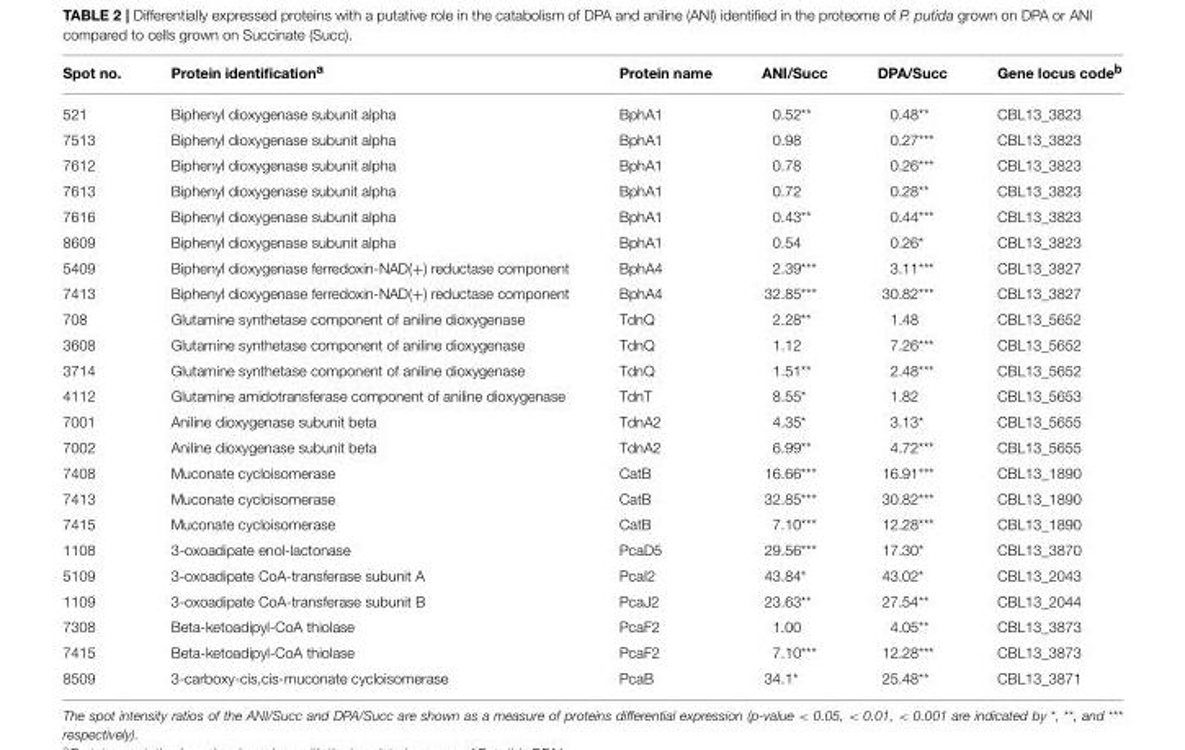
<table><thead><tr><td>Spot no.</td><td>Protein identification<sup>a</sup></td><td>Protein name</td><td>ANI/Succ</td><td>DPA/Succ</td><td>Gene locus code<sup>b</sup></td></tr></thead><tbody><tr><td>521</td><td>Biphenyl dioxygenase subunit alpha</td><td>BphA1</td><td>0.52**</td><td>0.48**</td><td>CBL13_3823</td></tr><tr><td>7513</td><td>Biphenyl dioxygenase subunit alpha</td><td>BphA1</td><td>0.98</td><td>0.27***</td><td>CBL13_3823</td></tr><tr><td>7612</td><td>Biphenyl dioxygenase subunit alpha</td><td>BphA1</td><td>0.78</td><td>0.26***</td><td>CBL13_3823</td></tr><tr><td>7613</td><td>Biphenyl dioxygenase subunit alpha</td><td>BphA1</td><td>0.72</td><td>0.28**</td><td>CBL13_3823</td></tr><tr><td>7616</td><td>Biphenyl dioxygenase subunit alpha</td><td>BphA1</td><td>0.43**</td><td>0.44***</td><td>CBL13_3823</td></tr><tr><td>8609</td><td>Biphenyl dioxygenase subunit alpha</td><td>BphA1</td><td>0.54</td><td>0.26*</td><td>CBL13_3823</td></tr><tr><td>5409</td><td>Biphenyl dioxygenase ferredoxin-NAD(+) reductase component</td><td>BphA4</td><td>2.39***</td><td>3.11***</td><td>CBL13_3827</td></tr><tr><td>7413</td><td>Biphenyl dioxygenase ferredoxin-NAD(+) reductase component</td><td>BphA4</td><td>32.85***</td><td>30.82***</td><td>CBL13_3827</td></tr><tr><td>708</td><td>Glutamine synthetase component of aniline dioxygenase</td><td>TdnQ</td><td>2.28**</td><td>1.48</td><td>CBL13_5652</td></tr><tr><td>3608</td><td>Glutamine synthetase component of aniline dioxygenase</td><td>TdnQ</td><td>1.12</td><td>7.26***</td><td>CBL13_5652</td></tr><tr><td>3714</td><td>Glutamine synthetase component of aniline dioxygenase</td><td>TdnQ</td><td>1.51**</td><td>2.48***</td><td>CBL13_5652</td></tr><tr><td>4112</td><td>Glutamine amidotransferase component of aniline dioxygenase</td><td>TdnT</td><td>8.55*</td><td>1.82</td><td>CBL13_5653</td></tr><tr><td>7001</td><td>Aniline dioxygenase subunit beta</td><td>TdnA2</td><td>4.35*</td><td>3.13*</td><td>CBL13_5655</td></tr><tr><td>7002</td><td>Aniline dioxygenase subunit beta</td><td>TdnA2</td><td>6.99**</td><td>4.72***</td><td>CBL13_5655</td></tr><tr><td>7408</td><td>Muconate cycloisomerase</td><td>CatB</td><td>16.66***</td><td>16.91***</td><td>CBL13_1890</td></tr><tr><td>7413</td><td>Muconate cycloisomerase</td><td>CatB</td><td>32.85***</td><td>30.82***</td><td>CBL13_1890</td></tr><tr><td>7415</td><td>Muconate cycloisomerase</td><td>CatB</td><td>7.10***</td><td>12.28***</td><td>CBL13_1890</td></tr><tr><td>1108</td><td>3-oxoadipate enol-lactonase</td><td>PcaD5</td><td>29.56***</td><td>17.30*</td><td>CBL13_3870</td></tr><tr><td>5109</td><td>3-oxoadipate CoA-transferase subunit A</td><td>PcaI2</td><td>43.84*</td><td>43.02*</td><td>CBL13_2043</td></tr><tr><td>1109</td><td>3-oxoadipate CoA-transferase subunit B</td><td>PcaJ2</td><td>23.63**</td><td>27.54**</td><td>CBL13_2044</td></tr><tr><td>7308</td><td>Beta-ketoadipyl-CoA thiolase</td><td>PcaF2</td><td>1.00</td><td>4.05**</td><td>CBL13_3873</td></tr><tr><td>7415</td><td>Beta-ketoadipyl-CoA thiolase</td><td>PcaF2</td><td>7.10***</td><td>12.28***</td><td>CBL13_3873</td></tr><tr><td>8509</td><td>3-carboxy-cis,cis-muconate cycloisomerase</td><td>PcaB</td><td>34.1*</td><td>25.48**</td><td>CBL13_3871</td></tr></tbody></table>